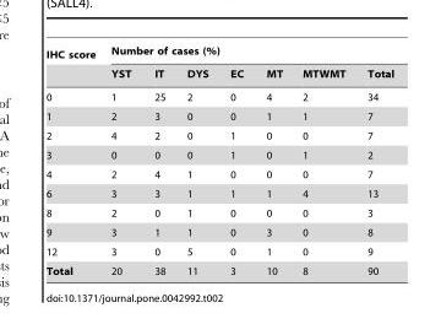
<table><thead><tr><td rowspan="2">IHC score</td><td colspan="7">Number of cases (%)</td></tr><tr><td>YST</td><td>IT</td><td>DYS</td><td>EC</td><td>MT</td><td>MTWMT</td><td>Total</td></tr></thead><tbody><tr><td>0</td><td>1</td><td>25</td><td>2</td><td>0</td><td>4</td><td>2</td><td>34</td></tr><tr><td>1</td><td>2</td><td>3</td><td>0</td><td>0</td><td>1</td><td>1</td><td>7</td></tr><tr><td>2</td><td>4</td><td>2</td><td>0</td><td>1</td><td>0</td><td>0</td><td>7</td></tr><tr><td>3</td><td>0</td><td>0</td><td>0</td><td>1</td><td>0</td><td>1</td><td>2</td></tr><tr><td>4</td><td>2</td><td>4</td><td>1</td><td>0</td><td>0</td><td>0</td><td>7</td></tr><tr><td>6</td><td>3</td><td>3</td><td>1</td><td>1</td><td>1</td><td>4</td><td>13</td></tr><tr><td>8</td><td>2</td><td>0</td><td>1</td><td>0</td><td>0</td><td>0</td><td>3</td></tr><tr><td>9</td><td>3</td><td>1</td><td>1</td><td>0</td><td>3</td><td>0</td><td>8</td></tr><tr><td>12</td><td>3</td><td>0</td><td>5</td><td>0</td><td>1</td><td>0</td><td>9</td></tr><tr><td>Total</td><td>20</td><td>38</td><td>11</td><td>3</td><td>10</td><td>8</td><td>90</td></tr></tbody></table>